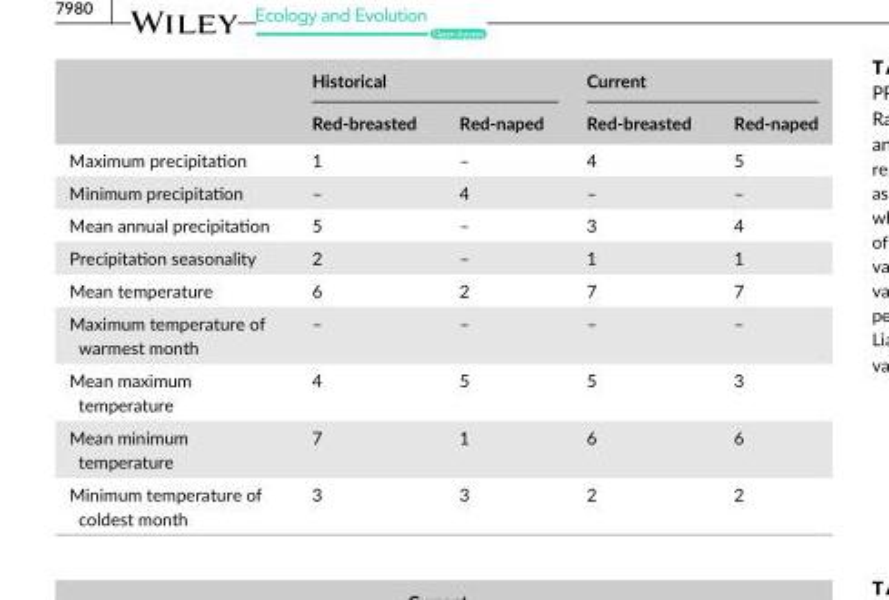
<table><thead><tr><td rowspan="2"></td><td colspan="2">Historical</td><td colspan="2">Current</td></tr><tr><td>Red- breasted</td><td>Red- naped</td><td>Red- breasted</td><td>Red- naped</td></tr></thead><tbody><tr><td>Maximum precipitation</td><td>1</td><td>–</td><td>4</td><td>5</td></tr><tr><td>Minimum precipitation</td><td>–</td><td>4</td><td>–</td><td>–</td></tr><tr><td>Mean annual precipitation</td><td>5</td><td>–</td><td>3</td><td>4</td></tr><tr><td>Precipitation seasonality</td><td>2</td><td>–</td><td>1</td><td>1</td></tr><tr><td>Mean temperature</td><td>6</td><td>2</td><td>7</td><td>7</td></tr><tr><td>Maximum temperature of warmest month</td><td>–</td><td>–</td><td>–</td><td>–</td></tr><tr><td>Mean maximum temperature</td><td>4</td><td>5</td><td>5</td><td>3</td></tr><tr><td>Mean minimum temperature</td><td>7</td><td>1</td><td>6</td><td>6</td></tr><tr><td>Minimum temperature of coldest month</td><td>3</td><td>3</td><td>2</td><td>2</td></tr></tbody></table>